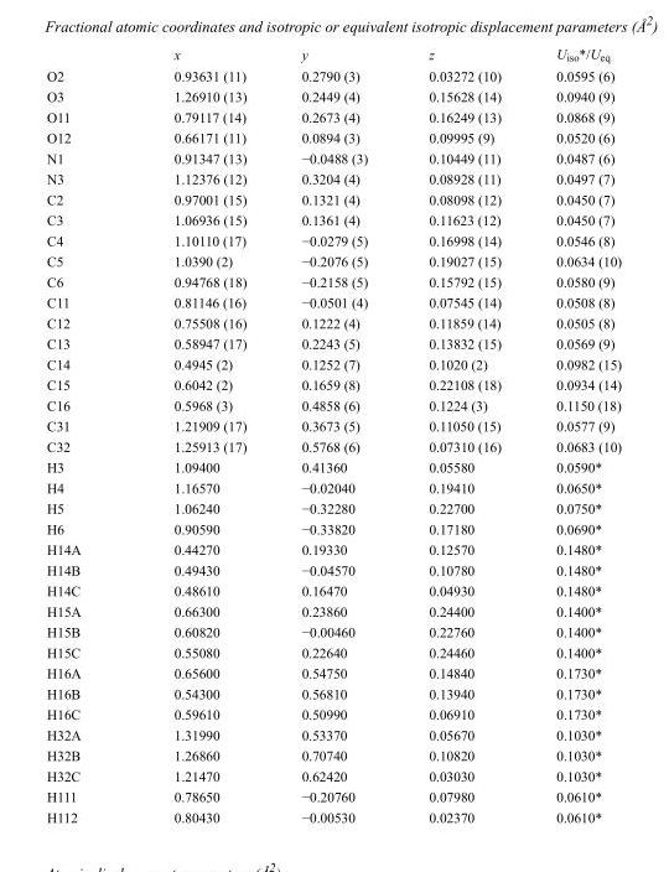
<table><thead><tr><td></td><td>x</td><td>y</td><td>z</td><td>U<sub>iso</sub>*/U<sub>eq</sub></td></tr></thead><tbody><tr><td>O2</td><td>0.93631 (11)</td><td>0.2790 (3)</td><td>0.03272 (10)</td><td>0.0595 (6)</td></tr><tr><td>O3</td><td>1.26910 (13)</td><td>0.2449 (4)</td><td>0.15628 (14)</td><td>0.0940 (9)</td></tr><tr><td>O11</td><td>0.79117 (14)</td><td>0.2673 (4)</td><td>0.16249 (13)</td><td>0.0868 (9)</td></tr><tr><td>O12</td><td>0.66171 (11)</td><td>0.0894 (3)</td><td>0.09995 (9)</td><td>0.0520 (6)</td></tr><tr><td>N1</td><td>0.91347 (13)</td><td>−0.0488 (3)</td><td>0.10449 (11)</td><td>0.0487 (6)</td></tr><tr><td>N3</td><td>1.12376 (12)</td><td>0.3204 (4)</td><td>0.08928 (11)</td><td>0.0497 (7)</td></tr><tr><td>C2</td><td>0.97001 (15)</td><td>0.1321 (4)</td><td>0.08098 (12)</td><td>0.0450 (7)</td></tr><tr><td>C3</td><td>1.06936 (15)</td><td>0.1361 (4)</td><td>0.11623 (12)</td><td>0.0450 (7)</td></tr><tr><td>C4</td><td>1.10110 (17)</td><td>−0.0279 (5)</td><td>0.16998 (14)</td><td>0.0546 (8)</td></tr><tr><td>C5</td><td>1.0390 (2)</td><td>−0.2076 (5)</td><td>0.19027 (15)</td><td>0.0634 (10)</td></tr><tr><td>C6</td><td>0.94768 (18)</td><td>−0.2158 (5)</td><td>0.15792 (15)</td><td>0.0580 (9)</td></tr><tr><td>C11</td><td>0.81146 (16)</td><td>−0.0501 (4)</td><td>0.07545 (14)</td><td>0.0508 (8)</td></tr><tr><td>C12</td><td>0.75508 (16)</td><td>0.1222 (4)</td><td>0.11859 (14)</td><td>0.0505 (8)</td></tr><tr><td>C13</td><td>0.58947 (17)</td><td>0.2243 (5)</td><td>0.13832 (15)</td><td>0.0569 (9)</td></tr><tr><td>C14</td><td>0.4945 (2)</td><td>0.1252 (7)</td><td>0.1020 (2)</td><td>0.0982 (15)</td></tr><tr><td>C15</td><td>0.6042 (2)</td><td>0.1659 (8)</td><td>0.22108 (18)</td><td>0.0934 (14)</td></tr><tr><td>C16</td><td>0.5968 (3)</td><td>0.4858 (6)</td><td>0.1224 (3)</td><td>0.1150 (18)</td></tr><tr><td>C31</td><td>1.21909 (17)</td><td>0.3673 (5)</td><td>0.11050 (15)</td><td>0.0577 (9)</td></tr><tr><td>C32</td><td>1.25913 (17)</td><td>0.5768 (6)</td><td>0.07310 (16)</td><td>0.0683 (10)</td></tr><tr><td>H3</td><td>1.09400</td><td>0.41360</td><td>0.05580</td><td>0.0590*</td></tr><tr><td>H4</td><td>1.16570</td><td>−0.02040</td><td>0.19410</td><td>0.0650*</td></tr><tr><td>H5</td><td>1.06240</td><td>−0.32280</td><td>0.22700</td><td>0.0750*</td></tr><tr><td>H6</td><td>0.90590</td><td>−0.33820</td><td>0.17180</td><td>0.0690*</td></tr><tr><td>H14A</td><td>0.44270</td><td>0.19330</td><td>0.12570</td><td>0.1480*</td></tr><tr><td>H14B</td><td>0.49430</td><td>−0.04570</td><td>0.10780</td><td>0.1480*</td></tr><tr><td>H14C</td><td>0.48610</td><td>0.16470</td><td>0.04930</td><td>0.1480*</td></tr><tr><td>H15A</td><td>0.66300</td><td>0.23860</td><td>0.24400</td><td>0.1400*</td></tr><tr><td>H15B</td><td>0.60820</td><td>−0.00460</td><td>0.22760</td><td>0.1400*</td></tr><tr><td>H15C</td><td>0.55080</td><td>0.22640</td><td>0.24460</td><td>0.1400*</td></tr><tr><td>H16A</td><td>0.65600</td><td>0.54750</td><td>0.14840</td><td>0.1730*</td></tr><tr><td>H16B</td><td>0.54300</td><td>0.56810</td><td>0.13940</td><td>0.1730*</td></tr><tr><td>H16C</td><td>0.59610</td><td>0.50990</td><td>0.06910</td><td>0.1730*</td></tr><tr><td>H32A</td><td>1.31990</td><td>0.53370</td><td>0.05670</td><td>0.1030*</td></tr><tr><td>H32B</td><td>1.26860</td><td>0.70740</td><td>0.10820</td><td>0.1030*</td></tr><tr><td>H32C</td><td>1.21470</td><td>0.62420</td><td>0.03030</td><td>0.1030*</td></tr><tr><td>H111</td><td>0.78650</td><td>−0.20760</td><td>0.07980</td><td>0.0610*</td></tr><tr><td>H112</td><td>0.80430</td><td>−0.00530</td><td>0.02370</td><td>0.0610*</td></tr></tbody></table>